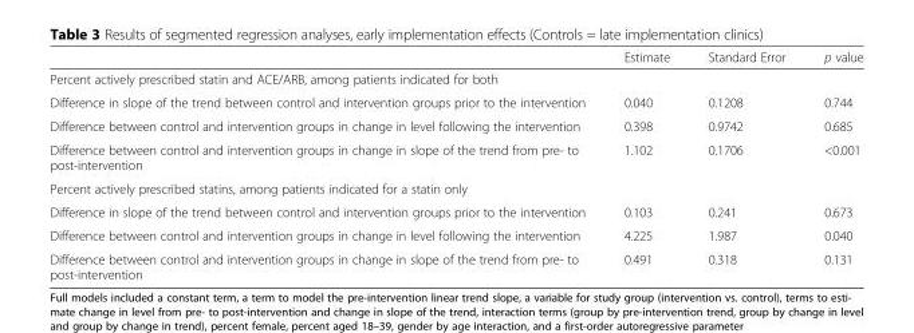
<table><thead><tr><td></td><td>Estimate</td><td>Standard Error</td><td>p value</td></tr></thead><tbody><tr><td colspan="4">Percent actively prescribed statin and ACE/ARB, among patients indicated for both</td></tr><tr><td>Difference in slope of the trend between control and intervention groups prior to the intervention</td><td>0.040</td><td>0.1208</td><td>0.744</td></tr><tr><td>Difference between control and intervention groups in change in level following the intervention</td><td>0.398</td><td>0.9742</td><td>0.685</td></tr><tr><td>Difference between control and intervention groups in change in slope of the trend from pre- to post-intervention</td><td>1.102</td><td>0.1706</td><td>&lt;0.001</td></tr><tr><td colspan="4">Percent actively prescribed statins, among patients indicated for a statin only</td></tr><tr><td>Difference in slope of the trend between control and intervention groups prior to the intervention</td><td>0.103</td><td>0.241</td><td>0.673</td></tr><tr><td>Difference between control and intervention groups in change in level following the intervention</td><td>4.225</td><td>1.987</td><td>0.040</td></tr><tr><td>Difference between control and intervention groups in change in slope of the trend from pre- to post-intervention</td><td>0.491</td><td>0.318</td><td>0.131</td></tr></tbody></table>